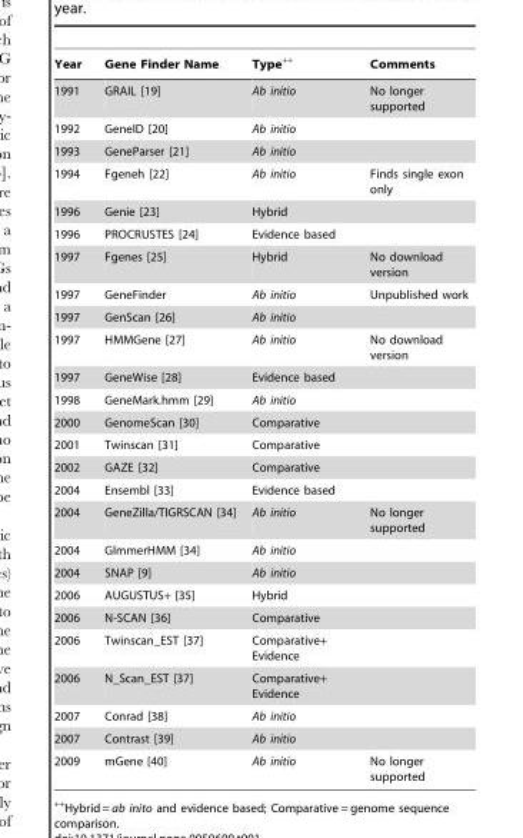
<table><thead><tr><td>Year</td><td>Gene Finder Name</td><td>Type++</td><td>Comments</td></tr></thead><tbody><tr><td>1991</td><td>GRAIL [19]</td><td>Ab initio</td><td>No longer supported</td></tr><tr><td>1992</td><td>GeneID [20]</td><td>Ab initio</td><td></td></tr><tr><td>1993</td><td>GeneParser [21]</td><td>Ab initio</td><td></td></tr><tr><td>1994</td><td>Fgeneh [22]</td><td>Ab initio</td><td>Finds single exon only</td></tr><tr><td>1996</td><td>Genie [23]</td><td>Hybrid</td><td></td></tr><tr><td>1996</td><td>PROCRUSTES [24]</td><td>Evidence based</td><td></td></tr><tr><td>1997</td><td>Fgenes [25]</td><td>Hybrid</td><td>No download version</td></tr><tr><td>1997</td><td>GeneFinder</td><td>Ab initio</td><td>Unpublished work</td></tr><tr><td>1997</td><td>GenScan [26]</td><td>Ab initio</td><td></td></tr><tr><td>1997</td><td>HMMGene [27]</td><td>Ab initio</td><td>No download version</td></tr><tr><td>1997</td><td>GeneWise [28]</td><td>Evidence based</td><td></td></tr><tr><td>1998</td><td>GeneMark.hmm [29]</td><td>Ab initio</td><td></td></tr><tr><td>2000</td><td>GenomeScan [30]</td><td>Comparative</td><td></td></tr><tr><td>2001</td><td>Twinscan [31]</td><td>Comparative</td><td></td></tr><tr><td>2002</td><td>GAZE [32]</td><td>Comparative</td><td></td></tr><tr><td>2004</td><td>Ensembl [33]</td><td>Evidence based</td><td></td></tr><tr><td>2004</td><td>GeneZilla/TIGRSCAN [34]</td><td>Ab initio</td><td>No longer supported</td></tr><tr><td>2004</td><td>GlmmerHMM [34]</td><td>Ab initio</td><td></td></tr><tr><td>2004</td><td>SNAP [9]</td><td>Ab initio</td><td></td></tr><tr><td>2006</td><td>AUGUSTUS+ [35]</td><td>Hybrid</td><td></td></tr><tr><td>2006</td><td>N-SCAN [36]</td><td>Comparative</td><td></td></tr><tr><td>2006</td><td>Twinscan_EST [37]</td><td>Comparative+ Evidence</td><td></td></tr><tr><td>2006</td><td>N_Scan_EST [37]</td><td>Comparative+ Evidence</td><td></td></tr><tr><td>2007</td><td>Conrad [38]</td><td>Ab initio</td><td></td></tr><tr><td>2007</td><td>Contrast [39]</td><td>Ab initio</td><td></td></tr><tr><td>2009</td><td>mGene [40]</td><td>Ab initio</td><td>No longer supported</td></tr></tbody></table>